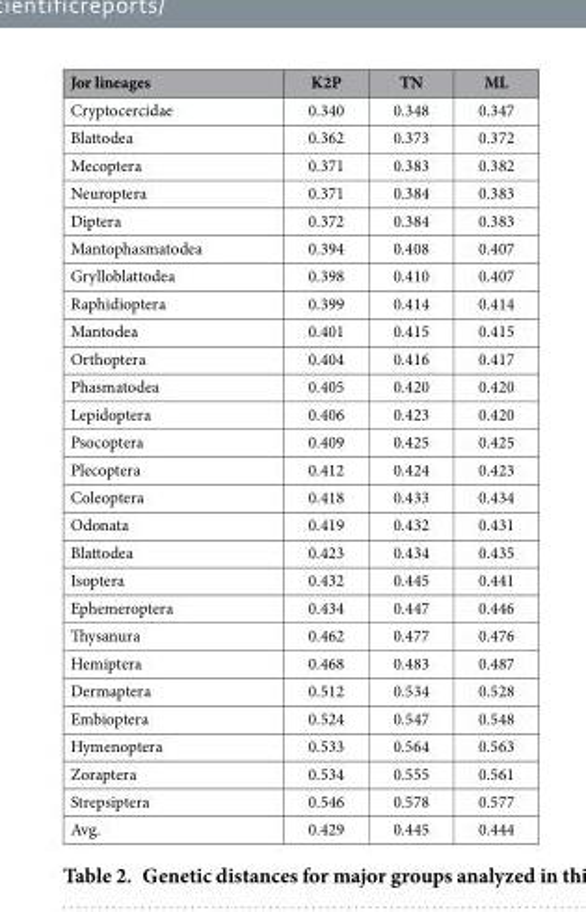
<table><thead><tr><td>Jor lineages</td><td>K2P</td><td>TN</td><td>ML</td></tr></thead><tbody><tr><td>Cryptocercidae</td><td>0.340</td><td>0.348</td><td>0.347</td></tr><tr><td>Blattodea</td><td>0.362</td><td>0.373</td><td>0.372</td></tr><tr><td>Mecoptera</td><td>0.371</td><td>0.383</td><td>0.382</td></tr><tr><td>Neuroptera</td><td>0.371</td><td>0.384</td><td>0.383</td></tr><tr><td>Diptera</td><td>0.372</td><td>0.384</td><td>0.383</td></tr><tr><td>Mantophasmatodea</td><td>0.394</td><td>0.408</td><td>0.407</td></tr><tr><td>Grylloblattodea</td><td>0.398</td><td>0.410</td><td>0.407</td></tr><tr><td>Raphidioptera</td><td>0.399</td><td>0.414</td><td>0.414</td></tr><tr><td>Mantodea</td><td>0.401</td><td>0.415</td><td>0.415</td></tr><tr><td>Orthoptera</td><td>0.404</td><td>0.416</td><td>0.417</td></tr><tr><td>Phasmatodea</td><td>0.405</td><td>0.420</td><td>0.420</td></tr><tr><td>Lepidoptera</td><td>0.406</td><td>0.423</td><td>0.420</td></tr><tr><td>Psocoptera</td><td>0.409</td><td>0.425</td><td>0.425</td></tr><tr><td>Plecoptera</td><td>0.412</td><td>0.424</td><td>0.423</td></tr><tr><td>Coleoptera</td><td>0.418</td><td>0.433</td><td>0.434</td></tr><tr><td>Odonata</td><td>0.419</td><td>0.432</td><td>0.431</td></tr><tr><td>Blattodea</td><td>0.423</td><td>0.434</td><td>0.435</td></tr><tr><td>Isoptera</td><td>0.432</td><td>0.445</td><td>0.441</td></tr><tr><td>Ephemeroptera</td><td>0.434</td><td>0.447</td><td>0.446</td></tr><tr><td>Thysanura</td><td>0.462</td><td>0.477</td><td>0.476</td></tr><tr><td>Hemiptera</td><td>0.468</td><td>0.483</td><td>0.487</td></tr><tr><td>Dermaptera</td><td>0.512</td><td>0.534</td><td>0.528</td></tr><tr><td>Embioptera</td><td>0.524</td><td>0.547</td><td>0.548</td></tr><tr><td>Hymenoptera</td><td>0.533</td><td>0.564</td><td>0.563</td></tr><tr><td>Zoraptera</td><td>0.534</td><td>0.555</td><td>0.561</td></tr><tr><td>Strepsiptera</td><td>0.546</td><td>0.578</td><td>0.577</td></tr><tr><td>Avg.</td><td>0.429</td><td>0.445</td><td>0.444</td></tr></tbody></table>